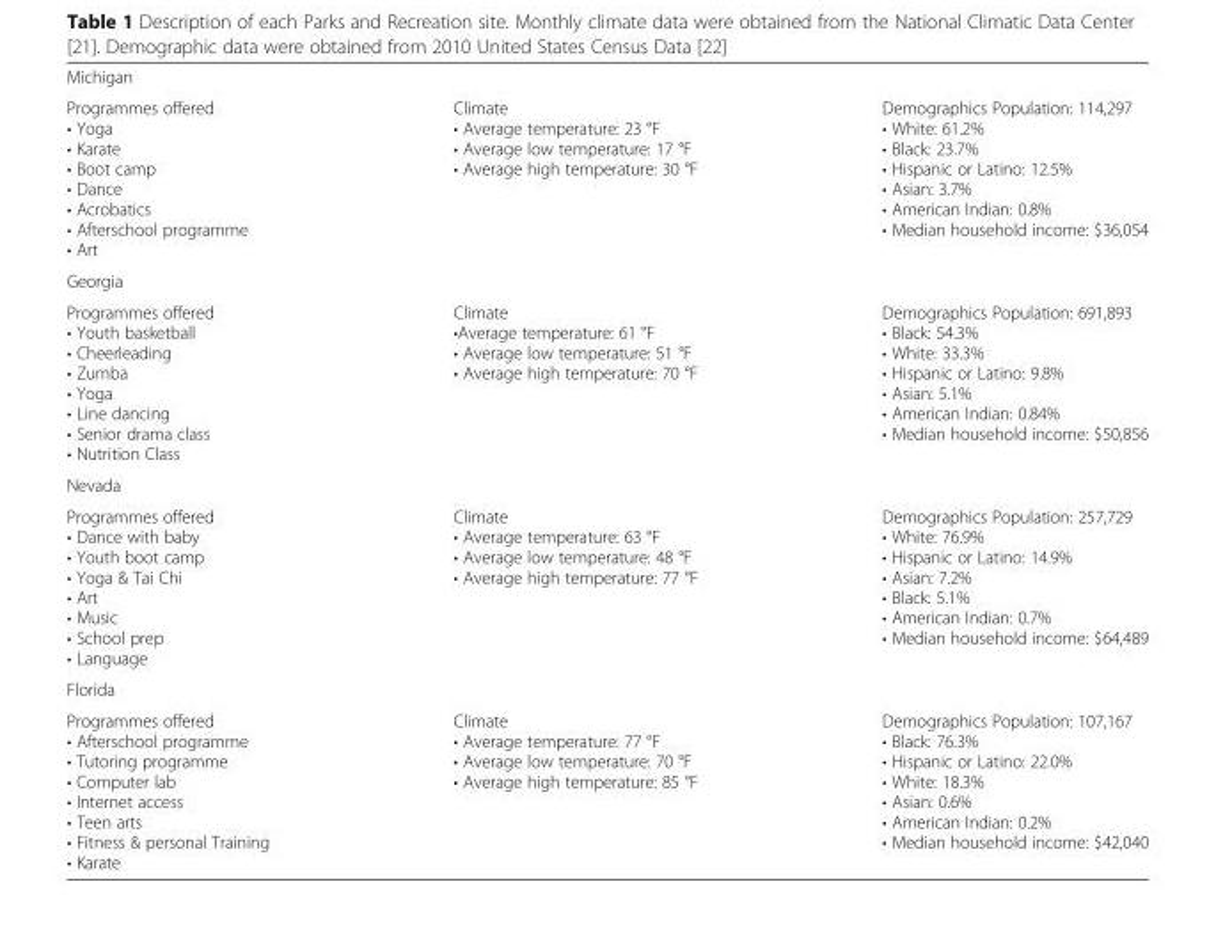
<table><tbody><tr><td colspan="3">Michigan</td></tr><tr><td>Programmes offered • Yoga • Karate • Boot camp • Dance • Acrobatics • Afterschool programme • Art</td><td>Climate • Average temperature: 23 °F • Average low temperature: 17 °F • Average high temperature: 30 °F</td><td>Demographics Population: 114,297 • White: 61.2% • Black: 23.7% • Hispanic or Latino: 12.5% • Asian: 3.7% • American Indian: 0.8% • Median household income: $36,054</td></tr><tr><td colspan="3">Georgia</td></tr><tr><td>Programmes offered • Youth basketball • Cheerleading • Zumba • Yoga • Line dancing • Senior drama class • Nutrition Class</td><td>Climate •Average temperature: 61 °F • Average low temperature: 51 °F • Average high temperature: 70 °F</td><td>Demographics Population: 691,893 • Black: 54.3% • White: 33.3% • Hispanic or Latino: 9.8% • Asian: 5.1% • American Indian: 0.84% • Median household income: $50,856</td></tr><tr><td colspan="3">Nevada</td></tr><tr><td>Programmes offered • Dance with baby • Youth boot camp • Yoga &amp; Tai Chi • Art • Music • School prep • Language</td><td>Climate • Average temperature: 63 °F • Average low temperature: 48 °F • Average high temperature: 77 °F</td><td>Demographics Population: 257,729 • White: 76.9% • Hispanic or Latino: 14.9% • Asian: 7.2% • Black: 5.1% • American Indian: 0.7% • Median household income: $64,489</td></tr><tr><td colspan="3">Florida</td></tr><tr><td>Programmes offered • Afterschool programme • Tutoring programme • Computer lab • Internet access • Teen arts • Fitness &amp; personal Training • Karate</td><td>Climate • Average temperature: 77 °F • Average low temperature: 70 °F • Average high temperature: 85 °F</td><td>Demographics Population: 107,167 • Black: 76.3% • Hispanic or Latino: 22.0% • White: 18.3% • Asian: 0.6% • American Indian: 0.2% • Median household income: $42,040</td></tr></tbody></table>